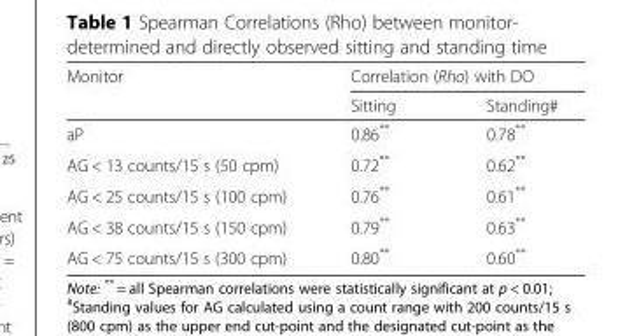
<table><thead><tr><td rowspan="2">Monitor</td><td colspan="2">Correlation (Rho) with DO</td></tr><tr><td>Sitting</td><td>Standing#</td></tr></thead><tbody><tr><td>aP</td><td>0.86**</td><td>0.78**</td></tr><tr><td>AG &lt; 13 counts/15 s (50 cpm)</td><td>0.72**</td><td>0.62**</td></tr><tr><td>AG &lt; 25 counts/15 s (100 cpm)</td><td>0.76**</td><td>0.61**</td></tr><tr><td>AG &lt; 38 counts/15 s (150 cpm)</td><td>0.79**</td><td>0.63**</td></tr><tr><td>AG &lt; 75 counts/15 s (300 cpm)</td><td>0.80**</td><td>0.60**</td></tr></tbody></table>